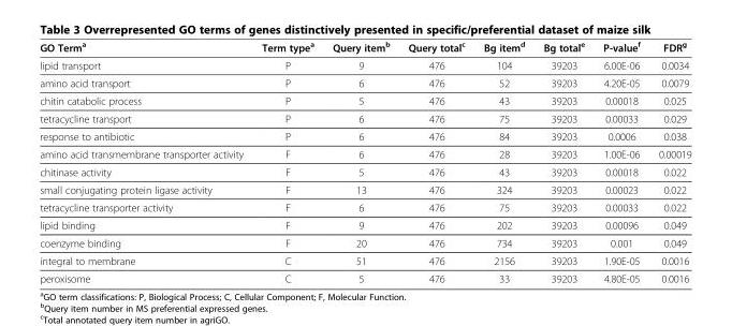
<table><thead><tr><td>GO Term<sup>a</sup></td><td>Term type<sup>a</sup></td><td>Query item<sup>b</sup></td><td>Query total<sup>c</sup></td><td>Bg item<sup>d</sup></td><td>Bg total<sup>e</sup></td><td>P-value<sup>f</sup></td><td>FDR<sup>g</sup></td></tr></thead><tbody><tr><td>lipid transport</td><td>P</td><td>9</td><td>476</td><td>104</td><td>39203</td><td>6.00E-06</td><td>0.0034</td></tr><tr><td>amino acid transport</td><td>P</td><td>6</td><td>476</td><td>52</td><td>39203</td><td>4.20E-05</td><td>0.0079</td></tr><tr><td>chitin catabolic process</td><td>P</td><td>5</td><td>476</td><td>43</td><td>39203</td><td>0.00018</td><td>0.025</td></tr><tr><td>tetracycline transport</td><td>P</td><td>6</td><td>476</td><td>75</td><td>39203</td><td>0.00033</td><td>0.029</td></tr><tr><td>response to antibiotic</td><td>P</td><td>6</td><td>476</td><td>84</td><td>39203</td><td>0.0006</td><td>0.038</td></tr><tr><td>amino acid transmembrane transporter activity</td><td>F</td><td>6</td><td>476</td><td>28</td><td>39203</td><td>1.00E-06</td><td>0.00019</td></tr><tr><td>chitinase activity</td><td>F</td><td>5</td><td>476</td><td>43</td><td>39203</td><td>0.00018</td><td>0.022</td></tr><tr><td>small conjugating protein ligase activity</td><td>F</td><td>13</td><td>476</td><td>324</td><td>39203</td><td>0.00023</td><td>0.022</td></tr><tr><td>tetracycline transporter activity</td><td>F</td><td>6</td><td>476</td><td>75</td><td>39203</td><td>0.00033</td><td>0.022</td></tr><tr><td>lipid binding</td><td>F</td><td>9</td><td>476</td><td>202</td><td>39203</td><td>0.00096</td><td>0.049</td></tr><tr><td>coenzyme binding</td><td>F</td><td>20</td><td>476</td><td>734</td><td>39203</td><td>0.001</td><td>0.049</td></tr><tr><td>integral to membrane</td><td>C</td><td>51</td><td>476</td><td>2156</td><td>39203</td><td>1.90E-05</td><td>0.0016</td></tr><tr><td>peroxisome</td><td>C</td><td>5</td><td>476</td><td>33</td><td>39203</td><td>4.80E-05</td><td>0.0016</td></tr></tbody></table>